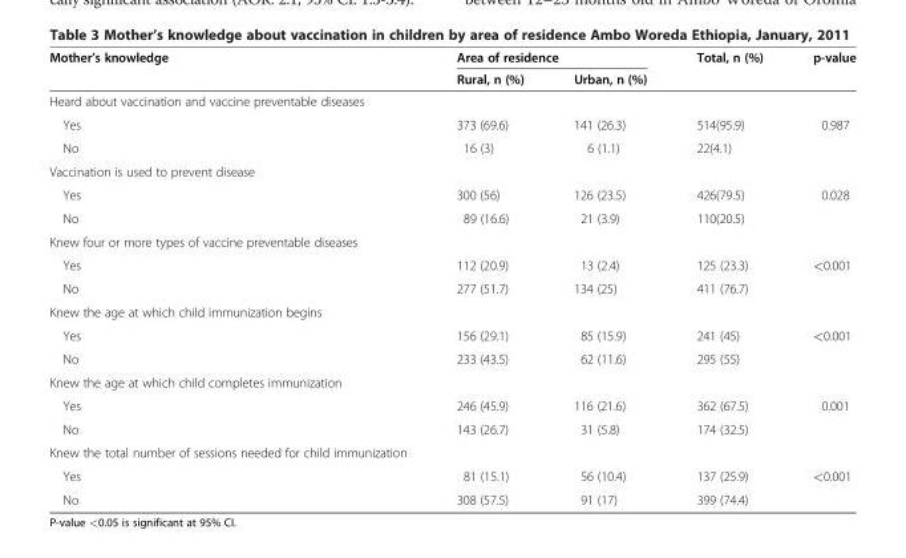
<table><thead><tr><td rowspan="2">Mother’s knowledge</td><td colspan="2">Area of residence</td><td rowspan="2">Total, n (%)</td><td rowspan="2">p-value</td></tr><tr><td>Rural, n (%)</td><td>Urban, n (%)</td></tr></thead><tbody><tr><td colspan="5">Heard about vaccination and vaccine preventable diseases</td></tr><tr><td>Yes</td><td>373 (69.6)</td><td>141 (26.3)</td><td>514(95.9)</td><td>0.987</td></tr><tr><td>No</td><td>16 (3)</td><td>6 (1.1)</td><td>22(4.1)</td><td></td></tr><tr><td colspan="5">Vaccination is used to prevent disease</td></tr><tr><td>Yes</td><td>300 (56)</td><td>126 (23.5)</td><td>426(79.5)</td><td>0.028</td></tr><tr><td>No</td><td>89 (16.6)</td><td>21 (3.9)</td><td>110(20.5)</td><td></td></tr><tr><td colspan="5">Knew four or more types of vaccine preventable diseases</td></tr><tr><td>Yes</td><td>112 (20.9)</td><td>13 (2.4)</td><td>125 (23.3)</td><td>&lt;0.001</td></tr><tr><td>No</td><td>277 (51.7)</td><td>134 (25)</td><td>411 (76.7)</td><td></td></tr><tr><td colspan="5">Knew the age at which child immunization begins</td></tr><tr><td>Yes</td><td>156 (29.1)</td><td>85 (15.9)</td><td>241 (45)</td><td>&lt;0.001</td></tr><tr><td>No</td><td>233 (43.5)</td><td>62 (11.6)</td><td>295 (55)</td><td></td></tr><tr><td colspan="5">Knew the age at which child completes immunization</td></tr><tr><td>Yes</td><td>246 (45.9)</td><td>116 (21.6)</td><td>362 (67.5)</td><td>0.001</td></tr><tr><td>No</td><td>143 (26.7)</td><td>31 (5.8)</td><td>174 (32.5)</td><td></td></tr><tr><td colspan="5">Knew the total number of sessions needed for child immunization</td></tr><tr><td>Yes</td><td>81 (15.1)</td><td>56 (10.4)</td><td>137 (25.9)</td><td>&lt;0.001</td></tr><tr><td>No</td><td>308 (57.5)</td><td>91 (17)</td><td>399 (74.4)</td><td></td></tr></tbody></table>